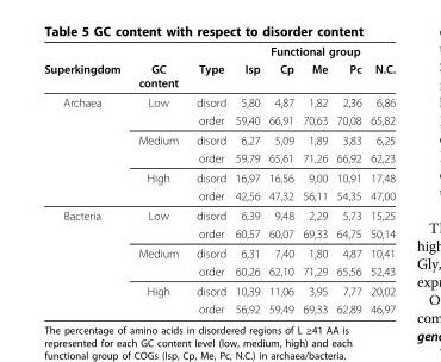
<table><thead><tr><td rowspan="2">Superkingdom</td><td rowspan="2">GC content</td><td rowspan="2">Type</td><td colspan="5">Functional group</td></tr><tr><td>Isp</td><td>Cp</td><td>Me</td><td>Pc</td><td>N.C.</td></tr></thead><tbody><tr><td rowspan="6">Archaea</td><td>Low</td><td>disord</td><td>5,80</td><td>4,87</td><td>1,82</td><td>2,36</td><td>6,86</td></tr><tr><td></td><td>order</td><td>59,40</td><td>66,91</td><td>70,63</td><td>70,08</td><td>65,82</td></tr><tr><td>Medium</td><td>disord</td><td>6,27</td><td>5,09</td><td>1,89</td><td>3,83</td><td>6,25</td></tr><tr><td></td><td>order</td><td>59,79</td><td>65,61</td><td>71,26</td><td>66,92</td><td>62,23</td></tr><tr><td>High</td><td>disord</td><td>16,97</td><td>16,56</td><td>9,00</td><td>10,91</td><td>17,48</td></tr><tr><td></td><td>order</td><td>42,56</td><td>47,32</td><td>56,11</td><td>54,35</td><td>47,00</td></tr><tr><td rowspan="6">Bacteria</td><td>Low</td><td>disord</td><td>6,39</td><td>9,48</td><td>2,29</td><td>5,73</td><td>15,25</td></tr><tr><td></td><td>order</td><td>60,57</td><td>60,07</td><td>69,33</td><td>64,75</td><td>50,14</td></tr><tr><td>Medium</td><td>disord</td><td>6,31</td><td>7,40</td><td>1,80</td><td>4,87</td><td>10,41</td></tr><tr><td></td><td>order</td><td>60,26</td><td>62,10</td><td>71,29</td><td>65,56</td><td>52,43</td></tr><tr><td>High</td><td>disord</td><td>10,39</td><td>11,06</td><td>3,95</td><td>7,77</td><td>20,02</td></tr><tr><td></td><td>order</td><td>56,92</td><td>59,49</td><td>69,33</td><td>62,89</td><td>46,97</td></tr></tbody></table>